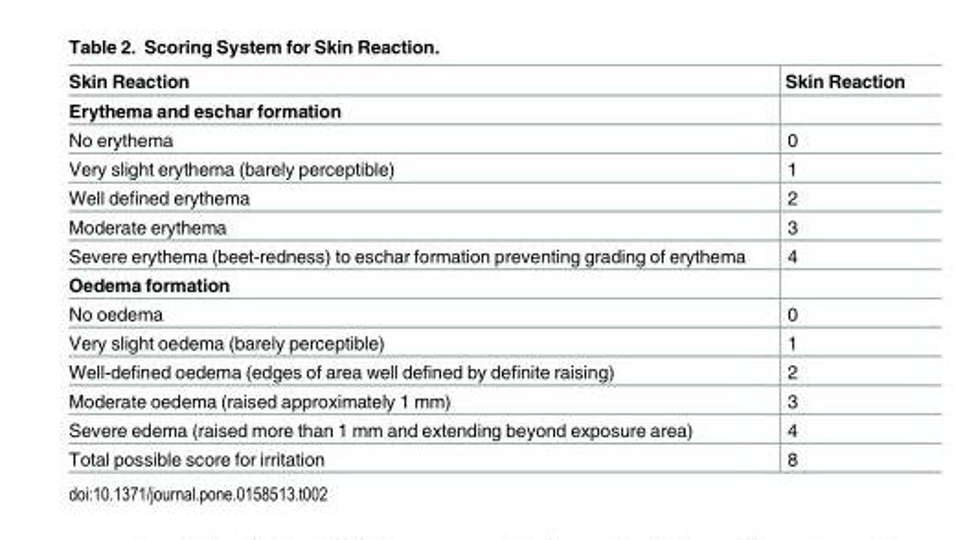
<table><thead><tr><td>Skin Reaction</td><td>Skin Reaction</td></tr></thead><tbody><tr><td colspan="2">Erythema and eschar formation</td></tr><tr><td>No erythema</td><td>0</td></tr><tr><td>Very slight erythema (barely perceptible)</td><td>1</td></tr><tr><td>Well defined erythema</td><td>2</td></tr><tr><td>Moderate erythema</td><td>3</td></tr><tr><td>Severe erythema (beet-redness) to eschar formation preventing grading of erythema</td><td>4</td></tr><tr><td colspan="2">Oedema formation</td></tr><tr><td>No oedema</td><td>0</td></tr><tr><td>Very slight oedema (barely perceptible)</td><td>1</td></tr><tr><td>Well-defined oedema (edges of area well defined by definite raising)</td><td>2</td></tr><tr><td>Moderate oedema (raised approximately 1 mm)</td><td>3</td></tr><tr><td>Severe edema (raised more than 1 mm and extending beyond exposure area)</td><td>4</td></tr><tr><td>Total possible score for irritation</td><td>8</td></tr></tbody></table>